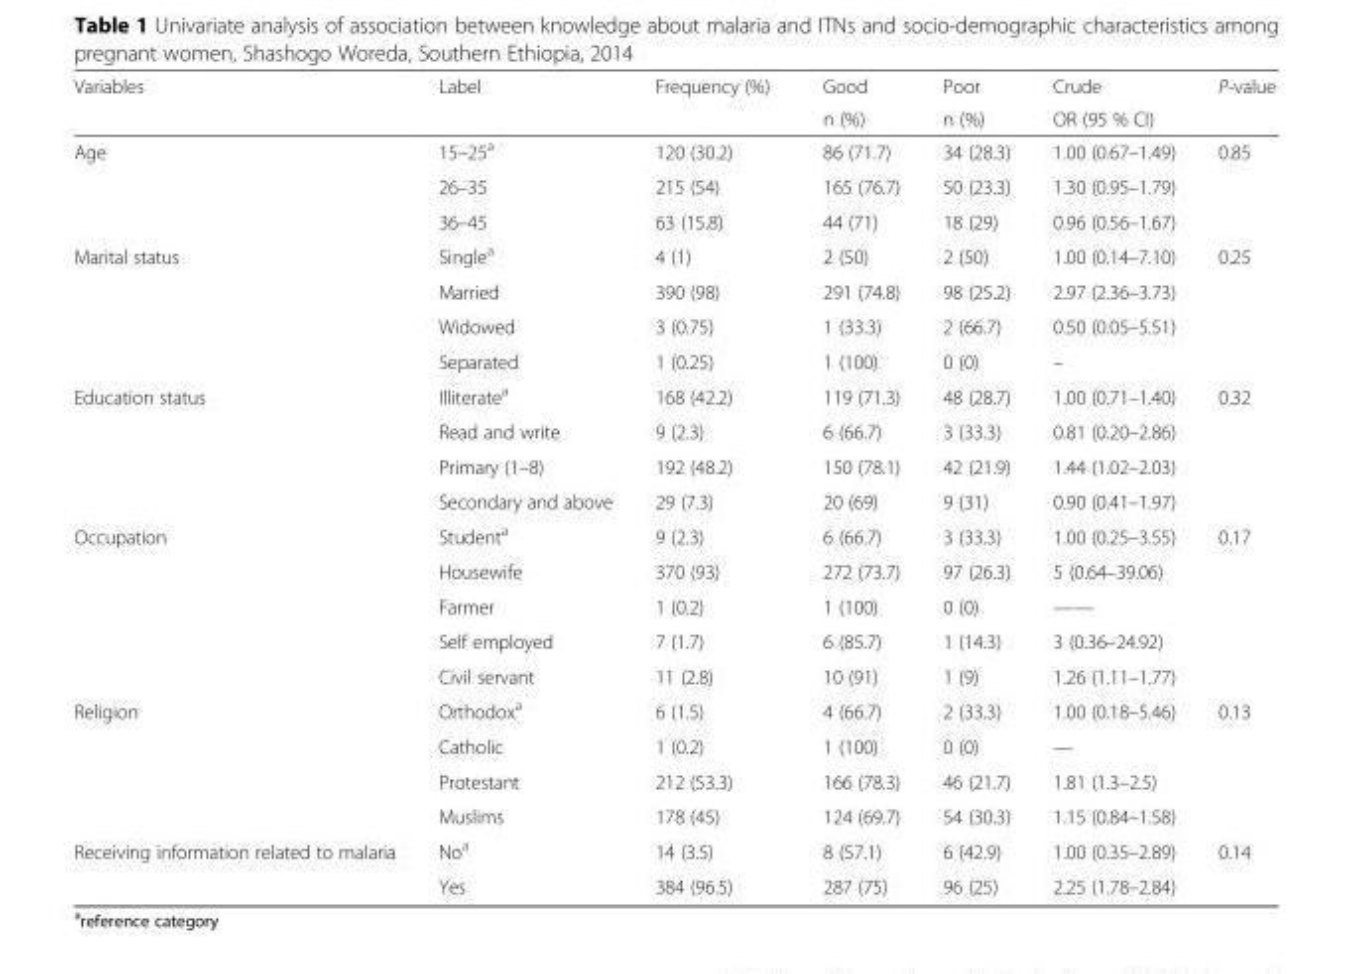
<table><thead><tr><td rowspan="2">Variables</td><td rowspan="2">Label</td><td rowspan="2">Frequency (%)</td><td rowspan="2">Good n (%)</td><td rowspan="2">Poor n (%)</td><td rowspan="2">Crude OR (95 % CI)</td><td rowspan="2">P-value</td></tr><tr></tr></thead><tbody><tr><td rowspan="3">Age</td><td>15–25<sup>a</sup></td><td>120 (30.2)</td><td>86 (71.7)</td><td>34 (28.3)</td><td>1.00 (0.67–1.49)</td><td rowspan="3">0.85</td></tr><tr><td>26–35</td><td>215 (54)</td><td>165 (76.7)</td><td>50 (23.3)</td><td>1.30 (0.95–1.79)</td></tr><tr><td>36–45</td><td>63 (15.8)</td><td>44 (71)</td><td>18 (29)</td><td>0.96 (0.56–1.67)</td></tr><tr><td rowspan="4">Marital status</td><td>Single<sup>a</sup></td><td>4 (1)</td><td>2 (50)</td><td>2 (50)</td><td>1.00 (0.14–7.10)</td><td rowspan="4">0.25</td></tr><tr><td>Married</td><td>390 (98)</td><td>291 (74.8)</td><td>98 (25.2)</td><td>2.97 (2.36–3.73)</td></tr><tr><td>Widowed</td><td>3 (0.75)</td><td>1 (33.3)</td><td>2 (66.7)</td><td>0.50 (0.05–5.51)</td></tr><tr><td>Separated</td><td>1 (0.25)</td><td>1 (100)</td><td>0 (0)</td><td>–</td></tr><tr><td rowspan="4">Education status</td><td>Illiterate<sup>a</sup></td><td>168 (42.2)</td><td>119 (71.3)</td><td>48 (28.7)</td><td>1.00 (0.71–1.40)</td><td rowspan="4">0.32</td></tr><tr><td>Read and write</td><td>9 (2.3)</td><td>6 (66.7)</td><td>3 (33.3)</td><td>0.81 (0.20–2.86)</td></tr><tr><td>Primary (1–8)</td><td>192 (48.2)</td><td>150 (78.1)</td><td>42 (21.9)</td><td>1.44 (1.02–2.03)</td></tr><tr><td>Secondary and above</td><td>29 (7.3)</td><td>20 (69)</td><td>9 (31)</td><td>0.90 (0.41–1.97)</td></tr><tr><td rowspan="5">Occupation</td><td>Student<sup>a</sup></td><td>9 (2.3)</td><td>6 (66.7)</td><td>3 (33.3)</td><td>1.00 (0.25–3.55)</td><td rowspan="5">0.17</td></tr><tr><td>Housewife</td><td>370 (93)</td><td>272 (73.7)</td><td>97 (26.3)</td><td>5 (0.64–39.06)</td></tr><tr><td>Farmer</td><td>1 (0.2)</td><td>1 (100)</td><td>0 (0)</td><td>——</td></tr><tr><td>Self employed</td><td>7 (1.7)</td><td>6 (85.7)</td><td>1 (14.3)</td><td>3 (0.36–24.92)</td></tr><tr><td>Civil servant</td><td>11 (2.8)</td><td>10 (91)</td><td>1 (9)</td><td>1.26 (1.11–1.77)</td></tr><tr><td rowspan="4">Religion</td><td>Orthodox<sup>a</sup></td><td>6 (1.5)</td><td>4 (66.7)</td><td>2 (33.3)</td><td>1.00 (0.18–5.46)</td><td rowspan="4">0.13</td></tr><tr><td>Catholic</td><td>1 (0.2)</td><td>1 (100)</td><td>0 (0)</td><td>—</td></tr><tr><td>Protestant</td><td>212 (53.3)</td><td>166 (78.3)</td><td>46 (21.7)</td><td>1.81 (1.3–2.5)</td></tr><tr><td>Muslims</td><td>178 (45)</td><td>124 (69.7)</td><td>54 (30.3)</td><td>1.15 (0.84–1.58)</td></tr><tr><td rowspan="2">Receiving information related to malaria</td><td>No<sup>a</sup></td><td>14 (3.5)</td><td>8 (57.1)</td><td>6 (42.9)</td><td>1.00 (0.35–2.89)</td><td rowspan="2">0.14</td></tr><tr><td>Yes</td><td>384 (96.5)</td><td>287 (75)</td><td>96 (25)</td><td>2.25 (1.78–2.84)</td></tr></tbody></table>